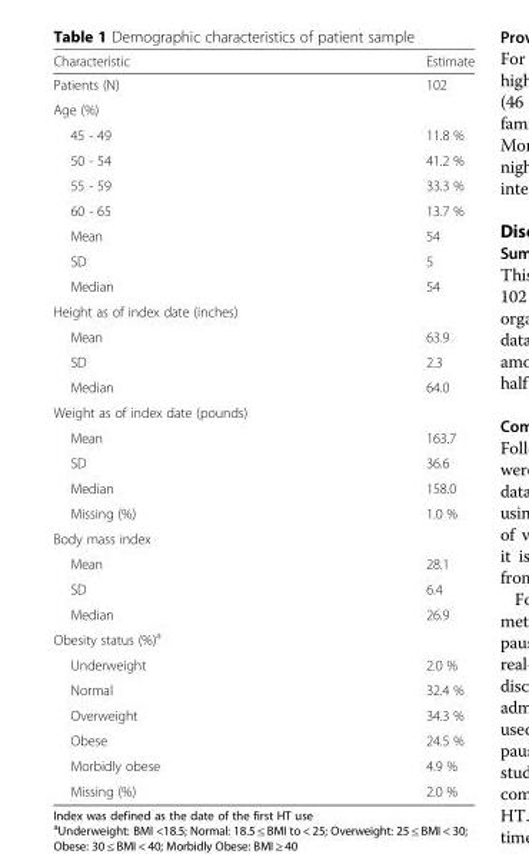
<table><thead><tr><td>Characteristic</td><td>Estimate</td></tr></thead><tbody><tr><td>Patients (N)</td><td>102</td></tr><tr><td colspan="2">Age (%)</td></tr><tr><td>45 - 49</td><td>11.8 %</td></tr><tr><td>50 - 54</td><td>41.2 %</td></tr><tr><td>55 - 59</td><td>33.3 %</td></tr><tr><td>60 - 65</td><td>13.7 %</td></tr><tr><td>Mean</td><td>54</td></tr><tr><td>SD</td><td>5</td></tr><tr><td>Median</td><td>54</td></tr><tr><td colspan="2">Height as of index date (inches)</td></tr><tr><td>Mean</td><td>63.9</td></tr><tr><td>SD</td><td>2.3</td></tr><tr><td>Median</td><td>64.0</td></tr><tr><td colspan="2">Weight as of index date (pounds)</td></tr><tr><td>Mean</td><td>163.7</td></tr><tr><td>SD</td><td>36.6</td></tr><tr><td>Median</td><td>158.0</td></tr><tr><td>Missing (%)</td><td>1.0 %</td></tr><tr><td colspan="2">Body mass index</td></tr><tr><td>Mean</td><td>28.1</td></tr><tr><td>SD</td><td>6.4</td></tr><tr><td>Median</td><td>26.9</td></tr><tr><td colspan="2">Obesity status (%)<sup>a</sup></td></tr><tr><td>Underweight</td><td>2.0 %</td></tr><tr><td>Normal</td><td>32.4 %</td></tr><tr><td>Overweight</td><td>34.3 %</td></tr><tr><td>Obese</td><td>24.5 %</td></tr><tr><td>Morbidly obese</td><td>4.9 %</td></tr><tr><td>Missing (%)</td><td>2.0 %</td></tr></tbody></table>